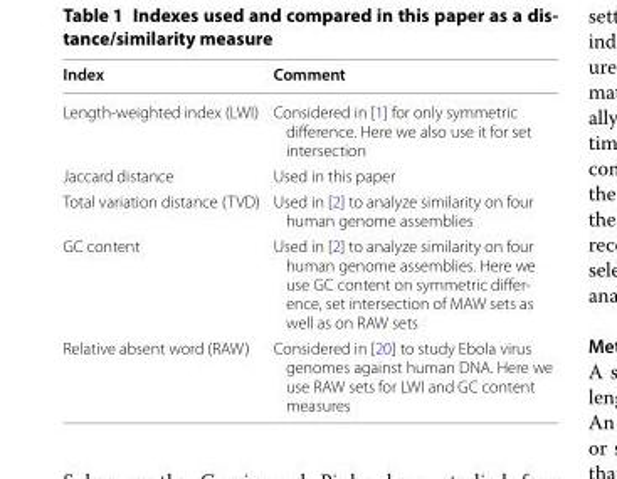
<table><thead><tr><td>Index</td><td>Comment</td></tr></thead><tbody><tr><td>Length-weighted index (LWI)</td><td>Considered in [1] for only symmetric difference. Here we also use it for set intersection</td></tr><tr><td>Jaccard distance</td><td>Used in this paper</td></tr><tr><td>Total variation distance (TVD)</td><td>Used in [2] to analyze similarity on four human genome assemblies</td></tr><tr><td>GC content</td><td>Used in [2] to analyze similarity on four human genome assemblies. Here we use GC content on symmetric differ- ence, set intersection of MAW sets as well as on RAW sets</td></tr><tr><td>Relative absent word (RAW)</td><td>Considered in [20] to study Ebola virus genomes against human DNA. Here we use RAW sets for LWI and GC content measures</td></tr></tbody></table>